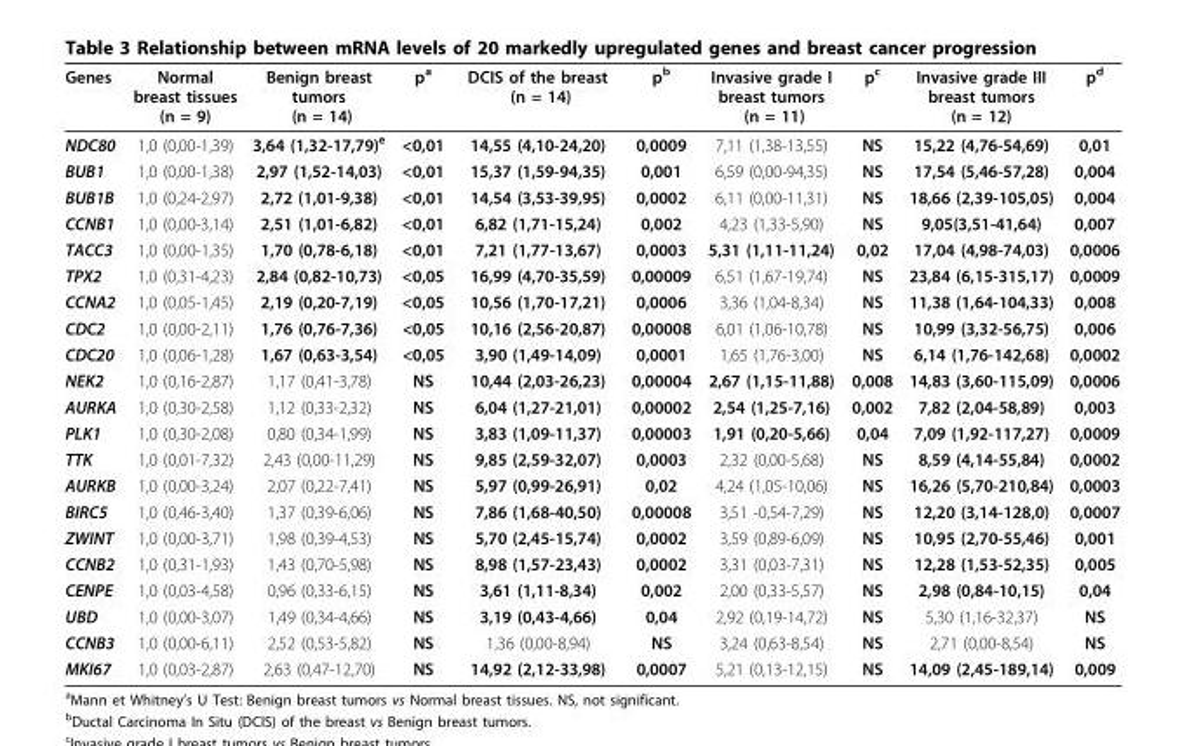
<table><thead><tr><td>Genes</td><td>Normal breast tissues (n = 9)</td><td>Benign breast tumors (n = 14)</td><td>p<sup>a</sup></td><td>DCIS of the breast (n = 14)</td><td>p<sup>b</sup></td><td>Invasive grade I breast tumors (n = 11)</td><td>p<sup>c</sup></td><td>Invasive grade III breast tumors (n = 12)</td><td>p<sup>d</sup></td></tr></thead><tbody><tr><td>NDC80</td><td>1,0 (0,00-1,39)</td><td>3,64 (1,32-17,79)<sup>e</sup></td><td>&lt;0,01</td><td>14,55 (4,10-24,20)</td><td>0,0009</td><td>7,11 (1,38-13,55)</td><td>NS</td><td>15,22 (4,76-54,69)</td><td>0,01</td></tr><tr><td>BUB1</td><td>1,0 (0,00-1,38)</td><td>2,97 (1,52-14,03)</td><td>&lt;0,01</td><td>15,37 (1,59-94,35)</td><td>0,001</td><td>6,59 (0,00-94,35)</td><td>NS</td><td>17,54 (5,46-57,28)</td><td>0,004</td></tr><tr><td>BUB1B</td><td>1,0 (0,24-2,97)</td><td>2,72 (1,01-9,38)</td><td>&lt;0,01</td><td>14,54 (3,53-39,95)</td><td>0,0002</td><td>6,11 (0,00-11,31)</td><td>NS</td><td>18,66 (2,39-105,05)</td><td>0,004</td></tr><tr><td>CCNB1</td><td>1,0 (0,00-3,14)</td><td>2,51 (1,01-6,82)</td><td>&lt;0,01</td><td>6,82 (1,71-15,24)</td><td>0,002</td><td>4,23 (1,33-5,90)</td><td>NS</td><td>9,05(3,51-41,64)</td><td>0,007</td></tr><tr><td>TACC3</td><td>1,0 (0,00-1,35)</td><td>1,70 (0,78-6,18)</td><td>&lt;0,01</td><td>7,21 (1,77-13,67)</td><td>0,0003</td><td>5,31 (1,11-11,24)</td><td>0,02</td><td>17,04 (4,98-74,03)</td><td>0,0006</td></tr><tr><td>TPX2</td><td>1,0 (0,31-4,23)</td><td>2,84 (0,82-10,73)</td><td>&lt;0,05</td><td>16,99 (4,70-35,59)</td><td>0,00009</td><td>6,51 (1,67-19,74)</td><td>NS</td><td>23,84 (6,15-315,17)</td><td>0,0009</td></tr><tr><td>CCNA2</td><td>1,0 (0,05-1,45)</td><td>2,19 (0,20-7,19)</td><td>&lt;0,05</td><td>10,56 (1,70-17,21)</td><td>0,0006</td><td>3,36 (1,04-8,34)</td><td>NS</td><td>11,38 (1,64-104,33)</td><td>0,008</td></tr><tr><td>CDC2</td><td>1,0 (0,00-2,11)</td><td>1,76 (0,76-7,36)</td><td>&lt;0,05</td><td>10,16 (2,56-20,87)</td><td>0,00008</td><td>6,01 (1,06-10,78)</td><td>NS</td><td>10,99 (3,32-56,75)</td><td>0,006</td></tr><tr><td>CDC20</td><td>1,0 (0,06-1,28)</td><td>1,67 (0,63-3,54)</td><td>&lt;0,05</td><td>3,90 (1,49-14,09)</td><td>0,0001</td><td>1,65 (1,76-3,00)</td><td>NS</td><td>6,14 (1,76-142,68)</td><td>0,0002</td></tr><tr><td>NEK2</td><td>1,0 (0,16-2,87)</td><td>1,17 (0,41-3,78)</td><td>NS</td><td>10,44 (2,03-26,23)</td><td>0,00004</td><td>2,67 (1,15-11,88)</td><td>0,008</td><td>14,83 (3,60-115,09)</td><td>0,0006</td></tr><tr><td>AURKA</td><td>1,0 (0,30-2,58)</td><td>1,12 (0,33-2,32)</td><td>NS</td><td>6,04 (1,27-21,01)</td><td>0,00002</td><td>2,54 (1,25-7,16)</td><td>0,002</td><td>7,82 (2,04-58,89)</td><td>0,003</td></tr><tr><td>PLK1</td><td>1,0 (0,30-2,08)</td><td>0,80 (0,34-1,99)</td><td>NS</td><td>3,83 (1,09-11,37)</td><td>0,00003</td><td>1,91 (0,20-5,66)</td><td>0,04</td><td>7,09 (1,92-117,27)</td><td>0,0009</td></tr><tr><td>TTK</td><td>1,0 (0,01-7,32)</td><td>2,43 (0,00-11,29)</td><td>NS</td><td>9,85 (2,59-32,07)</td><td>0,0003</td><td>2,32 (0,00-5,68)</td><td>NS</td><td>8,59 (4,14-55,84)</td><td>0,0002</td></tr><tr><td>AURKB</td><td>1,0 (0,00-3,24)</td><td>2,07 (0,22-7,41)</td><td>NS</td><td>5,97 (0,99-26,91)</td><td>0,02</td><td>4,24 (1,05-10,06)</td><td>NS</td><td>16,26 (5,70-210,84)</td><td>0,0003</td></tr><tr><td>BIRC5</td><td>1,0 (0,46-3,40)</td><td>1,37 (0,39-6,06)</td><td>NS</td><td>7,86 (1,68-40,50)</td><td>0,00008</td><td>3,51 -0,54-7,29)</td><td>NS</td><td>12,20 (3,14-128,0)</td><td>0,0007</td></tr><tr><td>ZWINT</td><td>1,0 (0,00-3,71)</td><td>1,98 (0,39-4,53)</td><td>NS</td><td>5,70 (2,45-15,74)</td><td>0,0002</td><td>3,59 (0,89-6,09)</td><td>NS</td><td>10,95 (2,70-55,46)</td><td>0,001</td></tr><tr><td>CCNB2</td><td>1,0 (0,31-1,93)</td><td>1,43 (0,70-5,98)</td><td>NS</td><td>8,98 (1,57-23,43)</td><td>0,0002</td><td>3,31 (0,03-7,31)</td><td>NS</td><td>12,28 (1,53-52,35)</td><td>0,005</td></tr><tr><td>CENPE</td><td>1,0 (0,03-4,58)</td><td>0,96 (0,33-6,15)</td><td>NS</td><td>3,61 (1,11-8,34)</td><td>0,002</td><td>2,00 (0,33-5,57)</td><td>NS</td><td>2,98 (0,84-10,15)</td><td>0,04</td></tr><tr><td>UBD</td><td>1,0 (0,00-3,07)</td><td>1,49 (0,34-4,66)</td><td>NS</td><td>3,19 (0,43-4,66)</td><td>0,04</td><td>2,92 (0,19-14,72)</td><td>NS</td><td>5,30 (1,16-32,37)</td><td>NS</td></tr><tr><td>CCNB3</td><td>1,0 (0,00-6,11)</td><td>2,52 (0,53-5,82)</td><td>NS</td><td>1,36 (0,00-8,94)</td><td>NS</td><td>3,24 (0,63-8,54)</td><td>NS</td><td>2,71 (0,00-8,54)</td><td>NS</td></tr><tr><td>MKI67</td><td>1,0 (0,03-2,87)</td><td>2,63 (0,47-12,70)</td><td>NS</td><td>14,92 (2,12-33,98)</td><td>0,0007</td><td>5,21 (0,13-12,15)</td><td>NS</td><td>14,09 (2,45-189,14)</td><td>0,009</td></tr></tbody></table>